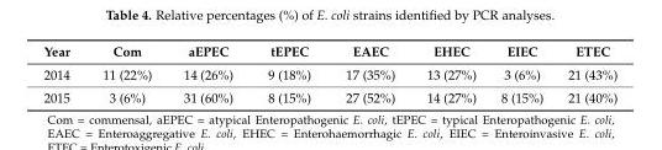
<table><thead><tr><td>Year</td><td>Com</td><td>aEPEC</td><td>tEPEC</td><td>EAEC</td><td>EHEC</td><td>EIEC</td><td>ETEC</td></tr></thead><tbody><tr><td>2014</td><td>11 (22%)</td><td>14 (26%)</td><td>9 (18%)</td><td>17 (35%)</td><td>13 (27%)</td><td>3 (6%)</td><td>21 (43%)</td></tr><tr><td>2015</td><td>3 (6%)</td><td>31 (60%)</td><td>8 (15%)</td><td>27 (52%)</td><td>14 (27%)</td><td>8 (15%)</td><td>21 (40%)</td></tr></tbody></table>